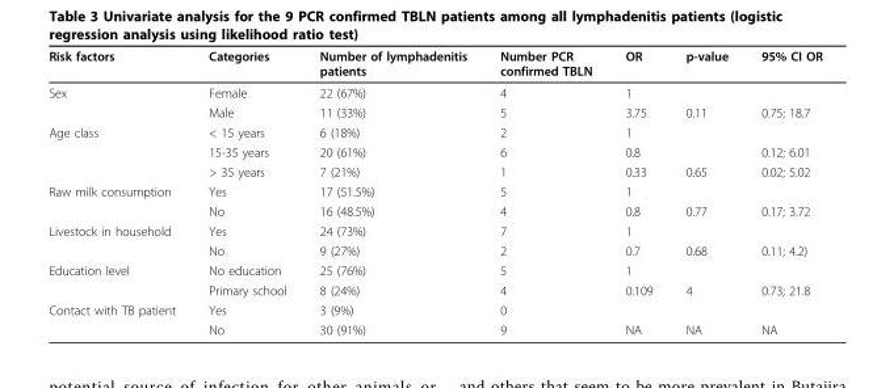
<table><thead><tr><td>Risk factors</td><td>Categories</td><td>Number of lymphadenitis patients</td><td>Number PCR confirmed TBLN</td><td>OR</td><td>p-value</td><td>95% CI OR</td></tr></thead><tbody><tr><td rowspan="2">Sex</td><td>Female</td><td>22 (67%)</td><td>4</td><td>1</td><td></td><td></td></tr><tr><td>Male</td><td>11 (33%)</td><td>5</td><td>3.75</td><td>0.11</td><td>0.75; 18.7</td></tr><tr><td rowspan="3">Age class</td><td>&lt; 15 years</td><td>6 (18%)</td><td>2</td><td>1</td><td></td><td></td></tr><tr><td>15-35 years</td><td>20 (61%)</td><td>6</td><td>0.8</td><td></td><td>0.12; 6.01</td></tr><tr><td>&gt; 35 years</td><td>7 (21%)</td><td>1</td><td>0.33</td><td>0.65</td><td>0.02; 5.02</td></tr><tr><td rowspan="2">Raw milk consumption</td><td>Yes</td><td>17 (51.5%)</td><td>5</td><td>1</td><td></td><td></td></tr><tr><td>No</td><td>16 (48.5%)</td><td>4</td><td>0.8</td><td>0.77</td><td>0.17; 3.72</td></tr><tr><td rowspan="2">Livestock in household</td><td>Yes</td><td>24 (73%)</td><td>7</td><td>1</td><td></td><td></td></tr><tr><td>No</td><td>9 (27%)</td><td>2</td><td>0.7</td><td>0.68</td><td>0.11; 4.2)</td></tr><tr><td rowspan="2">Education level</td><td>No education</td><td>25 (76%)</td><td>5</td><td>1</td><td></td><td></td></tr><tr><td>Primary school</td><td>8 (24%)</td><td>4</td><td>0.109</td><td>4</td><td>0.73; 21.8</td></tr><tr><td rowspan="2">Contact with TB patient</td><td>Yes</td><td>3 (9%)</td><td>0</td><td></td><td></td><td></td></tr><tr><td>No</td><td>30 (91%)</td><td>9</td><td>NA</td><td>NA</td><td>NA</td></tr></tbody></table>